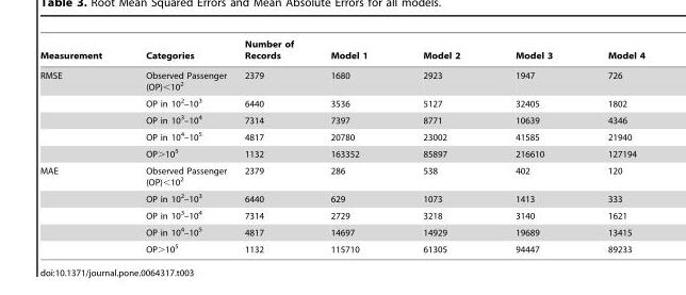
<table><thead><tr><td>Measurement</td><td>Categories</td><td>Number of Records</td><td>Model 1</td><td>Model 2</td><td>Model 3</td><td>Model 4</td></tr></thead><tbody><tr><td rowspan="5">RMSE</td><td>Observed Passenger (OP)&lt;10<sup>2</sup></td><td>2379</td><td>1680</td><td>2923</td><td>1947</td><td>726</td></tr><tr><td>OP in 10<sup>2</sup>–10<sup>3</sup></td><td>6440</td><td>3536</td><td>5127</td><td>32405</td><td>1802</td></tr><tr><td>OP in 10<sup>3</sup>–10<sup>4</sup></td><td>7314</td><td>7397</td><td>8771</td><td>10639</td><td>4346</td></tr><tr><td>OP in 10<sup>4</sup>–10<sup>5</sup></td><td>4817</td><td>20780</td><td>23002</td><td>41585</td><td>21940</td></tr><tr><td>OP&gt;10<sup>5</sup></td><td>1132</td><td>163352</td><td>85897</td><td>216610</td><td>127194</td></tr><tr><td rowspan="5">MAE</td><td>Observed Passenger (OP)&lt;10<sup>2</sup></td><td>2379</td><td>286</td><td>538</td><td>402</td><td>120</td></tr><tr><td>OP in 10<sup>2</sup>–10<sup>3</sup></td><td>6440</td><td>629</td><td>1073</td><td>1413</td><td>333</td></tr><tr><td>OP in 10<sup>3</sup>–10<sup>4</sup></td><td>7314</td><td>2729</td><td>3218</td><td>3140</td><td>1621</td></tr><tr><td>OP in 10<sup>4</sup>–10<sup>5</sup></td><td>4817</td><td>14697</td><td>14929</td><td>19689</td><td>13415</td></tr><tr><td>OP&gt;10<sup>5</sup></td><td>1132</td><td>115710</td><td>61305</td><td>94447</td><td>89233</td></tr></tbody></table>